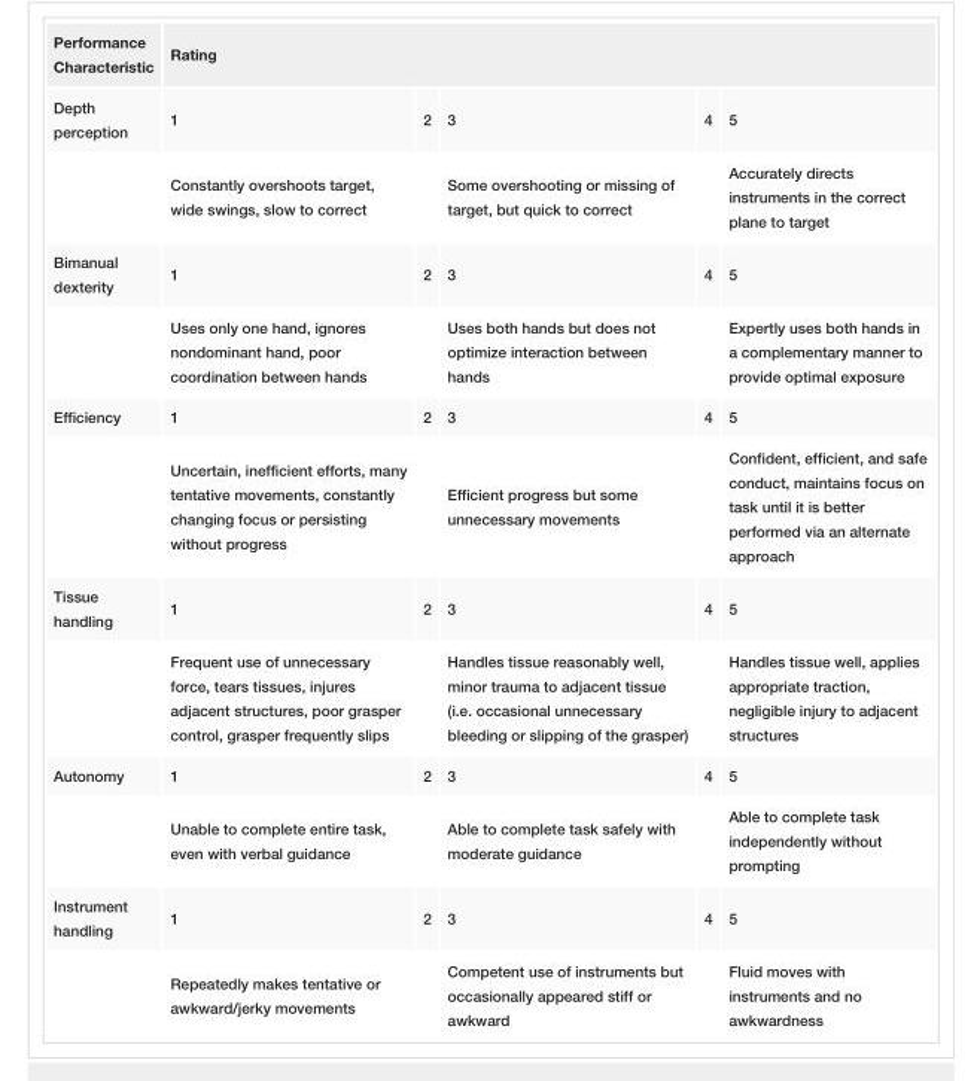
<table><tbody><tr><td>Characteristic</td><td colspan="5">Rating</td></tr><tr><td rowspan="2">Depth perception</td><td>1</td><td>2</td><td>3</td><td>4</td><td>5</td></tr><tr><td>Constantly overshoots target, wide swings, slow to correct</td><td></td><td>Some overshooting or missing of target, but quick to correct</td><td></td><td>Accurately directs instruments in the correct plane to target</td></tr><tr><td rowspan="2">Bimanual dexterity</td><td>1</td><td>2</td><td>3</td><td>4</td><td>5</td></tr><tr><td>Uses only one hand, ignores nondominant hand, poor coordination between hands</td><td></td><td>Uses both hands but does not optimize interaction between hands</td><td></td><td>Expertly uses both hands in a complementary manner to provide optimal exposure</td></tr><tr><td rowspan="2">Efficiency</td><td>1</td><td>2</td><td>3</td><td>4</td><td>5</td></tr><tr><td>Uncertain, inefficient efforts, many tentative movements, constantly changing focus or persisting without progress</td><td></td><td>Efficient progress but some unnecessary movements</td><td></td><td>Confident, efficient, and safe conduct, maintains focus on task until it is better performed via an alternate approach</td></tr><tr><td rowspan="2">Tissue handling</td><td>1</td><td>2</td><td>3</td><td>4</td><td>5</td></tr><tr><td>Frequent use of unnecessary force, tears tissues, injures adjacent structures, poor grasper control, grasper frequently slips</td><td></td><td>Handles tissue reasonably well, minor trauma to adjacent tissue (i.e. occasional unnecessary bleeding or slipping of the grasper)</td><td></td><td>Handles tissue well, applies appropriate traction, negligible injury to adjacent structures</td></tr><tr><td rowspan="2">Autonomy</td><td>1</td><td>2</td><td>3</td><td>4</td><td>5</td></tr><tr><td>Unable to complete entire task, even with verbal guidance</td><td></td><td>Able to complete task safely with moderate guidance</td><td></td><td>Able to complete task independently without prompting</td></tr><tr><td rowspan="2">Instrument handling</td><td>1</td><td>2</td><td>3</td><td>4</td><td>5</td></tr><tr><td>Repeatedly makes tentative or awkward/jerky movements</td><td></td><td>Competent use of instruments but occasionally appeared stiff or awkward</td><td></td><td>Fluid moves with instruments and no awkwardness</td></tr></tbody></table>